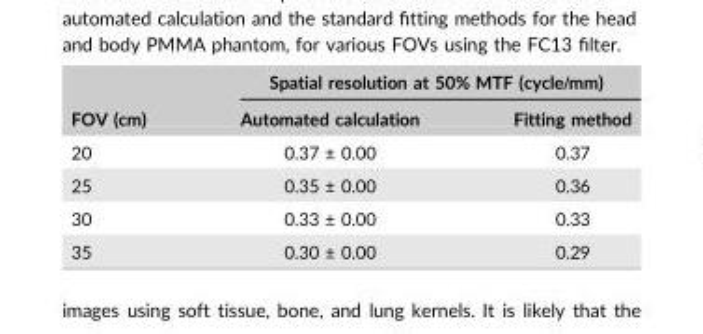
<table><thead><tr><td rowspan="2">FOV (cm)</td><td colspan="2">Spatial resolution at 50% MTF (cycle/mm)</td></tr><tr><td>Automated calculation</td><td>Fitting method</td></tr></thead><tbody><tr><td>20</td><td>0.37 ± 0.00</td><td>0.37</td></tr><tr><td>25</td><td>0.35 ± 0.00</td><td>0.36</td></tr><tr><td>30</td><td>0.33 ± 0.00</td><td>0.33</td></tr><tr><td>35</td><td>0.30 ± 0.00</td><td>0.29</td></tr></tbody></table>